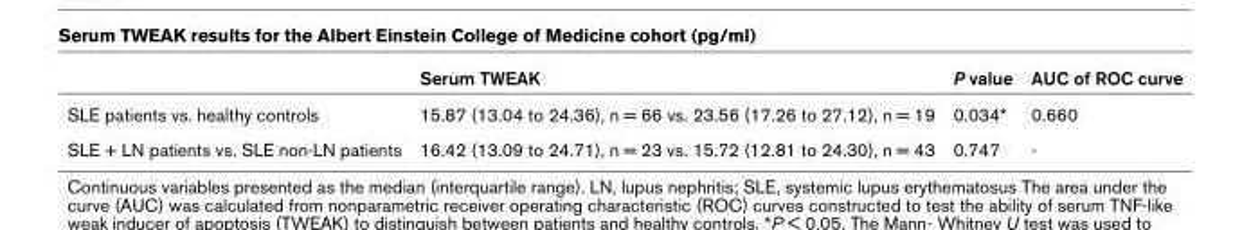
<table><thead><tr><td></td><td>Serum TWEAK</td><td>P value</td><td>AUC of ROC curve</td></tr></thead><tbody><tr><td>SLE patients vs. healthy controls</td><td>15.87 (13.04 to 24.36), n = 66 vs. 23.56 (17.26 to 27.12), n = 19</td><td>0.034*</td><td>0.660</td></tr><tr><td>SLE + LN patients vs. SLE non-LN patients</td><td>16.42 (13.09 to 24.71), n = 23 vs. 15.72 (12.81 to 24.30), n = 43</td><td>0.747</td><td>-</td></tr></tbody></table>